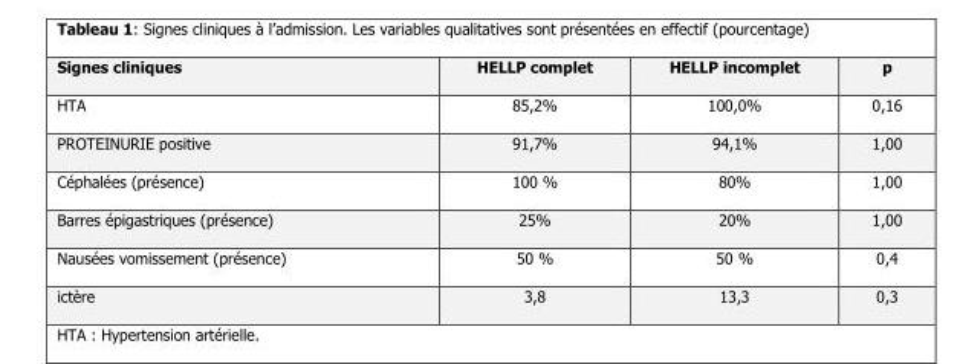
<table><thead><tr><td>Signes cliniques</td><td>HELLP complet</td><td>HELLP incomplet</td><td>p</td></tr></thead><tbody><tr><td>HTA</td><td>85,2%</td><td>100,0%</td><td>0,16</td></tr><tr><td>PROTEINURIE positive</td><td>91,7%</td><td>94,1%</td><td>1,00</td></tr><tr><td>Céphalées (présence)</td><td>100 %</td><td>80%</td><td>1,00</td></tr><tr><td>Barres épigastriques (présence)</td><td>25%</td><td>20%</td><td>1,00</td></tr><tr><td>Nausées vomissement (présence)</td><td>50 %</td><td>50 %</td><td>0,4</td></tr><tr><td>ictère</td><td>3,8</td><td>13,3</td><td>0,3</td></tr></tbody></table>